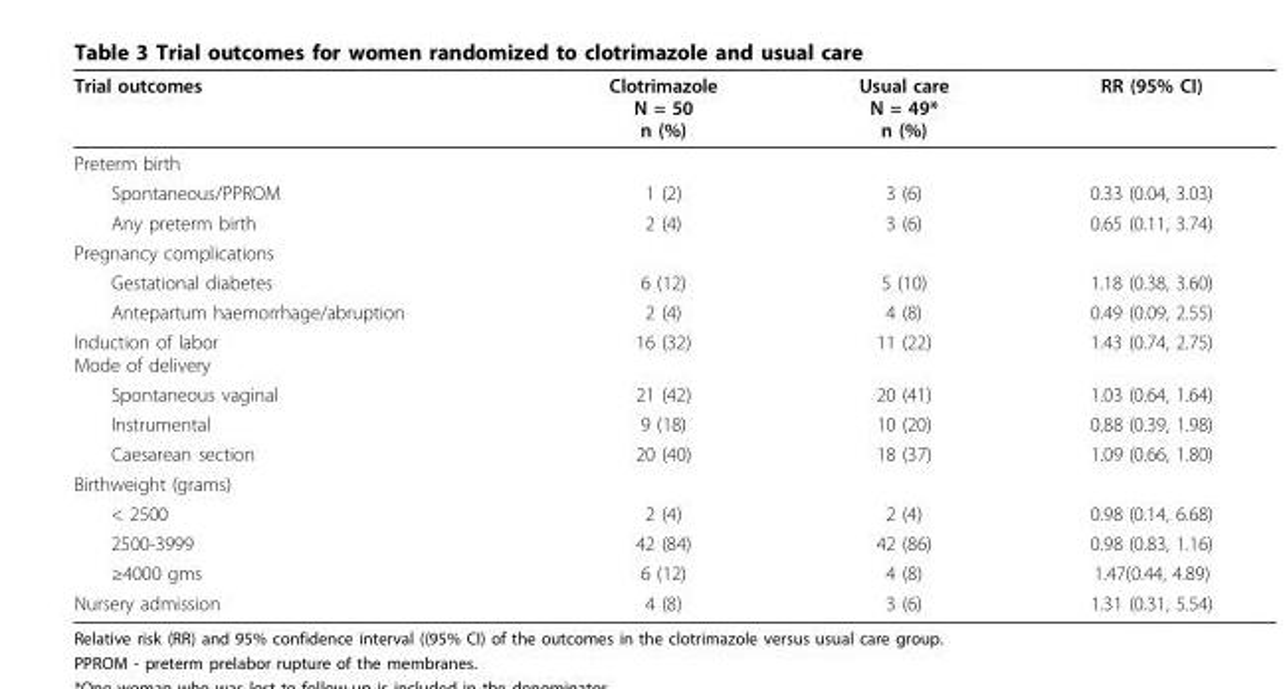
<table><thead><tr><td>Trial outcomes</td><td>Clotrimazole N = 50 n (%)</td><td>Usual care N = 49* n (%)</td><td>RR (95% CI)</td></tr></thead><tbody><tr><td colspan="4">Preterm birth</td></tr><tr><td>Spontaneous/PPROM</td><td>1 (2)</td><td>3 (6)</td><td>0.33 (0.04, 3.03)</td></tr><tr><td>Any preterm birth</td><td>2 (4)</td><td>3 (6)</td><td>0.65 (0.11, 3.74)</td></tr><tr><td colspan="4">Pregnancy complications</td></tr><tr><td>Gestational diabetes</td><td>6 (12)</td><td>5 (10)</td><td>1.18 (0.38, 3.60)</td></tr><tr><td>Antepartum haemorrhage/abruption</td><td>2 (4)</td><td>4 (8)</td><td>0.49 (0.09, 2.55)</td></tr><tr><td>Induction of labor Mode of delivery</td><td>16 (32)</td><td>11 (22)</td><td>1.43 (0.74, 2.75)</td></tr><tr><td>Spontaneous vaginal</td><td>21 (42)</td><td>20 (41)</td><td>1.03 (0.64, 1.64)</td></tr><tr><td>Instrumental</td><td>9 (18)</td><td>10 (20)</td><td>0.88 (0.39, 1.98)</td></tr><tr><td>Caesarean section</td><td>20 (40)</td><td>18 (37)</td><td>1.09 (0.66, 1.80)</td></tr><tr><td colspan="4">Birthweight (grams)</td></tr><tr><td>&lt; 2500</td><td>2 (4)</td><td>2 (4)</td><td>0.98 (0.14, 6.68)</td></tr><tr><td>2500-3999</td><td>42 (84)</td><td>42 (86)</td><td>0.98 (0.83, 1.16)</td></tr><tr><td>≥4000 gms</td><td>6 (12)</td><td>4 (8)</td><td>1.47(0.44, 4.89)</td></tr><tr><td>Nursery admission</td><td>4 (8)</td><td>3 (6)</td><td>1.31 (0.31, 5.54)</td></tr></tbody></table>